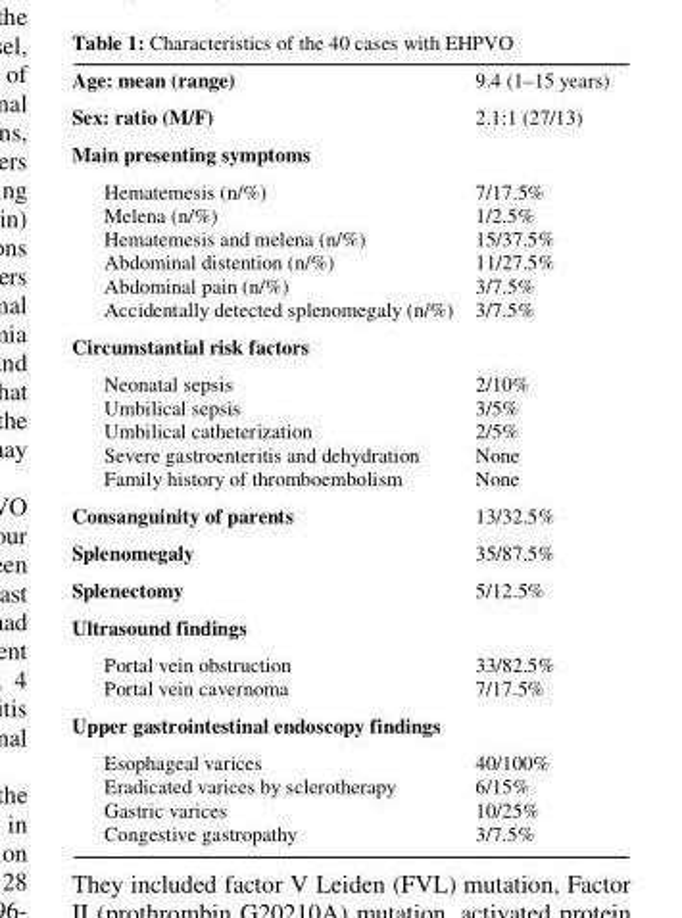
<table><tbody><tr><td>Age: mean (range)</td><td>9.4 (1–15 years)</td></tr><tr><td>Sex: ratio (M/F)</td><td>2.1:1 (27/13)</td></tr><tr><td colspan="2">Main presenting symptoms</td></tr><tr><td>Hematemesis (n/%)</td><td>7/17.5%</td></tr><tr><td>Melena (n/%)</td><td>1/2.5%</td></tr><tr><td>Hematemesis and melena (n/%)</td><td>15/37.5%</td></tr><tr><td>Abdominal distention (n/%)</td><td>11/27.5%</td></tr><tr><td>Abdominal pain (n/%)</td><td>3/7.5%</td></tr><tr><td>Accidentally detected splenomegaly (n/%)</td><td>3/7.5%</td></tr><tr><td colspan="2">Circumstantial risk factors</td></tr><tr><td>Neonatal sepsis</td><td>2/10%</td></tr><tr><td>Umbilical sepsis</td><td>3/5%</td></tr><tr><td>Umbilical catheterization</td><td>2/5%</td></tr><tr><td>Severe gastroenteritis and dehydration</td><td>None</td></tr><tr><td>Family history of thromboembolism</td><td>None</td></tr><tr><td>Consanguinity of parents</td><td>13/32.5%</td></tr><tr><td>Splenomegaly</td><td>35/87.5%</td></tr><tr><td>Splenectomy</td><td>5/12.5%</td></tr><tr><td colspan="2">Ultrasound findings</td></tr><tr><td>Portal vein obstruction</td><td>33/82.5%</td></tr><tr><td>Portal vein cavernoma</td><td>7/17.5%</td></tr><tr><td colspan="2">Upper gastrointestinal endoscopy findings</td></tr><tr><td>Esophageal varices</td><td>40/100%</td></tr><tr><td>Eradicated varices by sclerotherapy</td><td>6/15%</td></tr><tr><td>Gastric varices</td><td>10/25%</td></tr><tr><td>Congestive gastropathy</td><td>3/7.5%</td></tr></tbody></table>